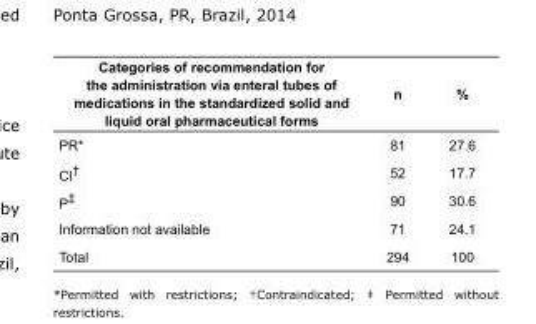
<table><tbody><tr><td>Categories of recommendation for the administration via enteral tubes of medications in the standardized solid and liquid oral pharmaceutical forms</td><td>n</td><td>%</td></tr><tr><td>PR*</td><td>81</td><td>27.6</td></tr><tr><td>CI<sup>†</sup></td><td>52</td><td>17.7</td></tr><tr><td>P<sup>‡</sup></td><td>90</td><td>30.6</td></tr><tr><td>Information not available</td><td>71</td><td>24.1</td></tr><tr><td>Total</td><td>294</td><td>100</td></tr></tbody></table>